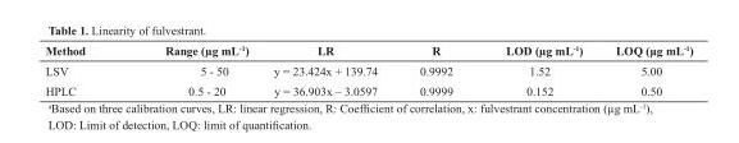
<table><thead><tr><td>Method</td><td>Range (µg mL<sup>-1</sup>)</td><td>LR</td><td>R</td><td>LOD (µg mL<sup>-1</sup>)</td><td>LOQ (µg mL<sup>-1</sup>)</td></tr></thead><tbody><tr><td>LSV</td><td>5 - 50</td><td>y = 23.424x + 139.74</td><td>0.9992</td><td>1.52</td><td>5.00</td></tr><tr><td>HPLC</td><td>0.5 - 20</td><td>y = 36.903x – 3.0597</td><td>0.9999</td><td>0.152</td><td>0.50</td></tr></tbody></table>